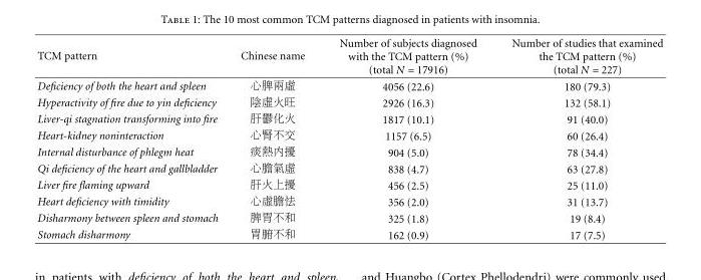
<table><thead><tr><td>TCM pattern</td><td>Chinese name</td><td>Number of subjects diagnosed with the TCM pattern (%) (total N = 17916)</td><td>Number of studies that examined the TCM pattern (%) (total N = 227)</td></tr></thead><tbody><tr><td>Deficiency of both the heart and spleen</td><td>心脾兩虛</td><td>4056 (22.6)</td><td>180 (79.3)</td></tr><tr><td>Hyperactivity of fire due to yin deficiency</td><td>陰虛火旺</td><td>2926 (16.3)</td><td>132 (58.1)</td></tr><tr><td>Liver-qi stagnation transforming into fire</td><td>肝鬱化火</td><td>1817 (10.1)</td><td>91 (40.0)</td></tr><tr><td>Heart-kidney noninteraction</td><td>心腎不交</td><td>1157 (6.5)</td><td>60 (26.4)</td></tr><tr><td>Internal disturbance of phlegm heat</td><td>痰熱內擾</td><td>904 (5.0)</td><td>78 (34.4)</td></tr><tr><td>Qi deficiency of the heart and gallbladder</td><td>心膽氣虛</td><td>838 (4.7)</td><td>63 (27.8)</td></tr><tr><td>Liver fire flaming upward</td><td>肝火上擾</td><td>456 (2.5)</td><td>25 (11.0)</td></tr><tr><td>Heart deficiency with timidity</td><td>心虛膽怯</td><td>356 (2.0)</td><td>31 (13.7)</td></tr><tr><td>Disharmony between spleen and stomach</td><td>脾胃不和</td><td>325 (1.8)</td><td>19 (8.4)</td></tr><tr><td>Stomach disharmony</td><td>胃腑不和</td><td>162 (0.9)</td><td>17 (7.5)</td></tr></tbody></table>